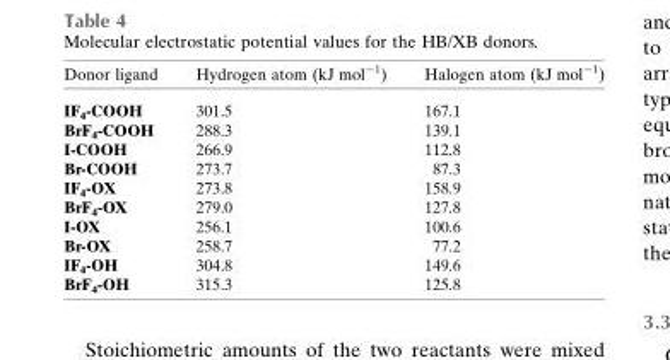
<table><thead><tr><td>Donor ligand</td><td>Hydrogen atom (kJ mol�1)</td><td>Halogen atom (kJ mol�1)</td></tr></thead><tbody><tr><td>IF<sub>4</sub>-COOH</td><td>301.5</td><td>167.1</td></tr><tr><td>BrF<sub>4</sub>-COOH</td><td>288.3</td><td>139.1</td></tr><tr><td>I-COOH</td><td>266.9</td><td>112.8</td></tr><tr><td>Br-COOH</td><td>273.7</td><td>87.3</td></tr><tr><td>IF<sub>4</sub>-OX</td><td>273.8</td><td>158.9</td></tr><tr><td>BrF<sub>4</sub>-OX</td><td>279.0</td><td>127.8</td></tr><tr><td>I-OX</td><td>256.1</td><td>100.6</td></tr><tr><td>Br-OX</td><td>258.7</td><td>77.2</td></tr><tr><td>IF<sub>4</sub>-OH</td><td>304.8</td><td>149.6</td></tr><tr><td>BrF<sub>4</sub>-OH</td><td>315.3</td><td>125.8</td></tr></tbody></table>